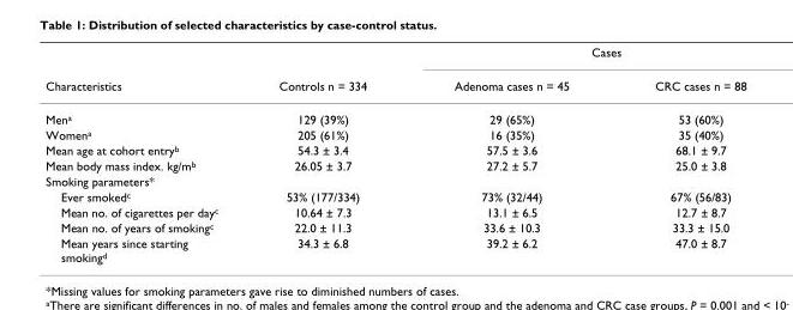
<table><thead><tr><td rowspan="2">Characteristics</td><td rowspan="2">Controls n = 334</td><td colspan="2">Cases</td></tr><tr><td>Adenoma cases n = 45</td><td>CRC cases n = 88</td></tr></thead><tbody><tr><td>Mena</td><td>129 (39%)</td><td>29 (65%)</td><td>53 (60%)</td></tr><tr><td>Womena</td><td>205 (61%)</td><td>16 (35%)</td><td>35 (40%)</td></tr><tr><td>Mean age at cohort entryb</td><td>54.3 ± 3.4</td><td>57.5 ± 3.6</td><td>68.1 ± 9.7</td></tr><tr><td>Mean body mass index. kg/mb</td><td>26.05 ± 3.7</td><td>27.2 ± 5.7</td><td>25.0 ± 3.8</td></tr><tr><td colspan="4">Smoking parameters*</td></tr><tr><td>Ever smokedc</td><td>53% (177/334)</td><td>73% (32/44)</td><td>67% (56/83)</td></tr><tr><td>Mean no. of cigarettes per dayc</td><td>10.64 ± 7.3</td><td>13.1 ± 6.5</td><td>12.7 ± 8.7</td></tr><tr><td>Mean no. of years of smokingc</td><td>22.0 ± 11.3</td><td>33.6 ± 10.3</td><td>33.3 ± 15.0</td></tr><tr><td>Mean years since starting smokingd</td><td>34.3 ± 6.8</td><td>39.2 ± 6.2</td><td>47.0 ± 8.7</td></tr></tbody></table>